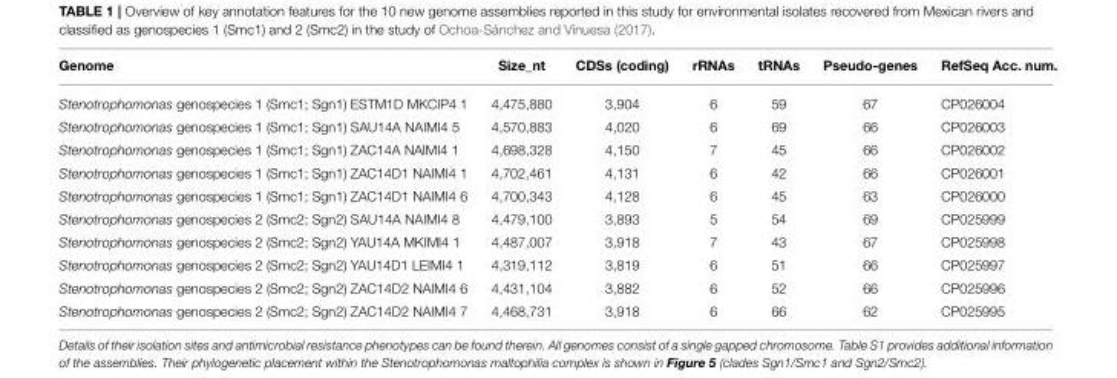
<table><thead><tr><td>Genome</td><td>Size_nt</td><td>CDSs (coding)</td><td>rRNAs</td><td>tRNAs</td><td>Pseudo-genes</td><td>RefSeq Acc. num.</td></tr></thead><tbody><tr><td>Stenotrophomonas genospecies 1 (Smc1; Sgn1) ESTM1D MKCIP4 1</td><td>4,475,880</td><td>3,904</td><td>6</td><td>59</td><td>67</td><td>CP026004</td></tr><tr><td>Stenotrophomonas genospecies 1 (Smc1; Sgn1) SAU14A NAIMI4 5</td><td>4,570,883</td><td>4,020</td><td>6</td><td>69</td><td>66</td><td>CP026003</td></tr><tr><td>Stenotrophomonas genospecies 1 (Smc1; Sgn1) ZAC14A NAIMI4 1</td><td>4,698,328</td><td>4,150</td><td>7</td><td>45</td><td>66</td><td>CP026002</td></tr><tr><td>Stenotrophomonas genospecies 1 (Smc1; Sgn1) ZAC14D1 NAIMI4 1</td><td>4,702,461</td><td>4,131</td><td>6</td><td>42</td><td>66</td><td>CP026001</td></tr><tr><td>Stenotrophomonas genospecies 1 (Smc1; Sgn1) ZAC14D1 NAIMI4 6</td><td>4,700,343</td><td>4,128</td><td>6</td><td>45</td><td>63</td><td>CP026000</td></tr><tr><td>Stenotrophomonas genospecies 2 (Smc2; Sgn2) SAU14A NAIMI4 8</td><td>4,479,100</td><td>3,893</td><td>5</td><td>54</td><td>69</td><td>CP025999</td></tr><tr><td>Stenotrophomonas genospecies 2 (Smc2; Sgn2) YAU14A MKIMI4 1</td><td>4,487,007</td><td>3,918</td><td>7</td><td>43</td><td>67</td><td>CP025998</td></tr><tr><td>Stenotrophomonas genospecies 2 (Smc2; Sgn2) YAU14D1 LEIMI4 1</td><td>4,319,112</td><td>3,819</td><td>6</td><td>51</td><td>66</td><td>CP025997</td></tr><tr><td>Stenotrophomonas genospecies 2 (Smc2; Sgn2) ZAC14D2 NAIMI4 6</td><td>4,431,104</td><td>3,882</td><td>6</td><td>52</td><td>66</td><td>CP025996</td></tr><tr><td>Stenotrophomonas genospecies 2 (Smc2; Sgn2) ZAC14D2 NAIMI4 7</td><td>4,468,731</td><td>3,918</td><td>6</td><td>66</td><td>62</td><td>CP025995</td></tr></tbody></table>